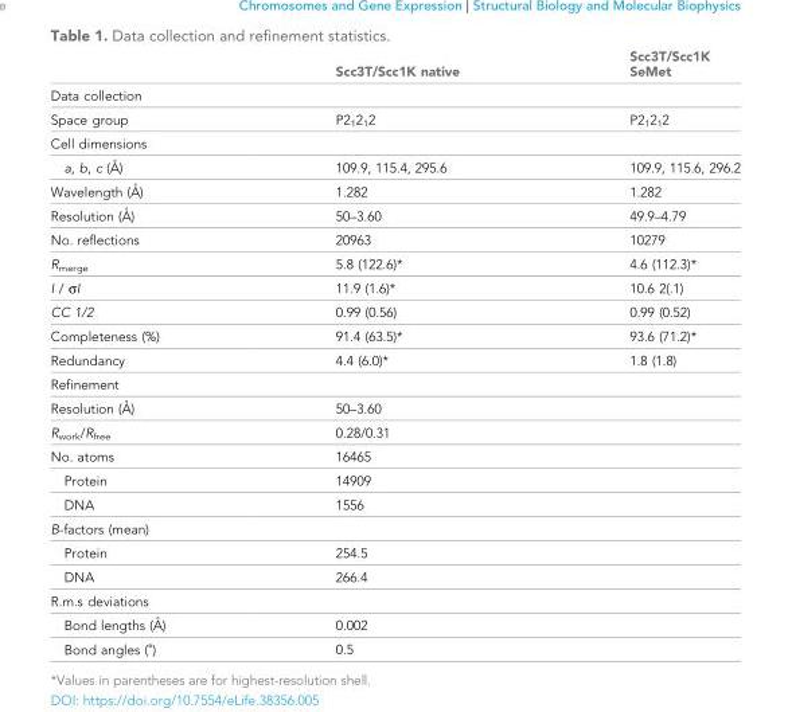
<table><thead><tr><td></td><td>Scc3T/Scc1K native</td><td>Scc3T/Scc1K SeMet</td></tr></thead><tbody><tr><td colspan="3">Data collection</td></tr><tr><td>Space group</td><td>P2<sub>1</sub>2<sub>1</sub>2</td><td>P2<sub>1</sub>2<sub>1</sub>2</td></tr><tr><td colspan="3">Cell dimensions</td></tr><tr><td>a, b, c (A˚ )</td><td>109.9, 115.4, 295.6</td><td>109.9, 115.6, 296.2</td></tr><tr><td>Wavelength (A˚ )</td><td>1.282</td><td>1.282</td></tr><tr><td>Resolution (A˚ )</td><td>50–3.60</td><td>49.9–4.79</td></tr><tr><td>No. reflections</td><td>20963</td><td>10279</td></tr><tr><td>R<sub>merge</sub></td><td>5.8 (122.6)*</td><td>4.6 (112.3)*</td></tr><tr><td>I / σI</td><td>11.9 (1.6)*</td><td>10.6 2(.1)</td></tr><tr><td>CC 1/2</td><td>0.99 (0.56)</td><td>0.99 (0.52)</td></tr><tr><td>Completeness (%)</td><td>91.4 (63.5)*</td><td>93.6 (71.2)*</td></tr><tr><td>Redundancy</td><td>4.4 (6.0)*</td><td>1.8 (1.8)</td></tr><tr><td colspan="3">Refinement</td></tr><tr><td>Resolution (A˚ )</td><td>50–3.60</td><td></td></tr><tr><td>R<sub>work</sub>/R<sub>free</sub></td><td>0.28/0.31</td><td></td></tr><tr><td>No. atoms</td><td>16465</td><td></td></tr><tr><td>Protein</td><td>14909</td><td></td></tr><tr><td>DNA</td><td>1556</td><td></td></tr><tr><td colspan="3">B-factors (mean)</td></tr><tr><td>Protein</td><td>254.5</td><td></td></tr><tr><td>DNA</td><td>266.4</td><td></td></tr><tr><td colspan="3">R.m.s deviations</td></tr><tr><td>Bond lengths (A˚ )</td><td>0.002</td><td></td></tr><tr><td>Bond angles (˚)</td><td>0.5</td><td></td></tr></tbody></table>